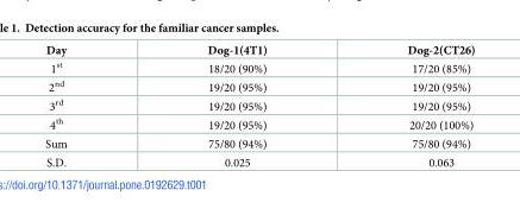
<table><thead><tr><td>Day</td><td>Dog-1(4T1)</td><td>Dog-2(CT26)</td></tr></thead><tbody><tr><td>1<sup>st</sup></td><td>18/20 (90%)</td><td>17/20 (85%)</td></tr><tr><td>2<sup>nd</sup></td><td>19/20 (95%)</td><td>19/20 (95%)</td></tr><tr><td>3<sup>rd</sup></td><td>19/20 (95%)</td><td>19/20 (95%)</td></tr><tr><td>4<sup>th</sup></td><td>19/20 (95%)</td><td>20/20 (100%)</td></tr><tr><td>Sum</td><td>75/80 (94%)</td><td>75/80 (94%)</td></tr><tr><td>S.D.</td><td>0.025</td><td>0.063</td></tr></tbody></table>